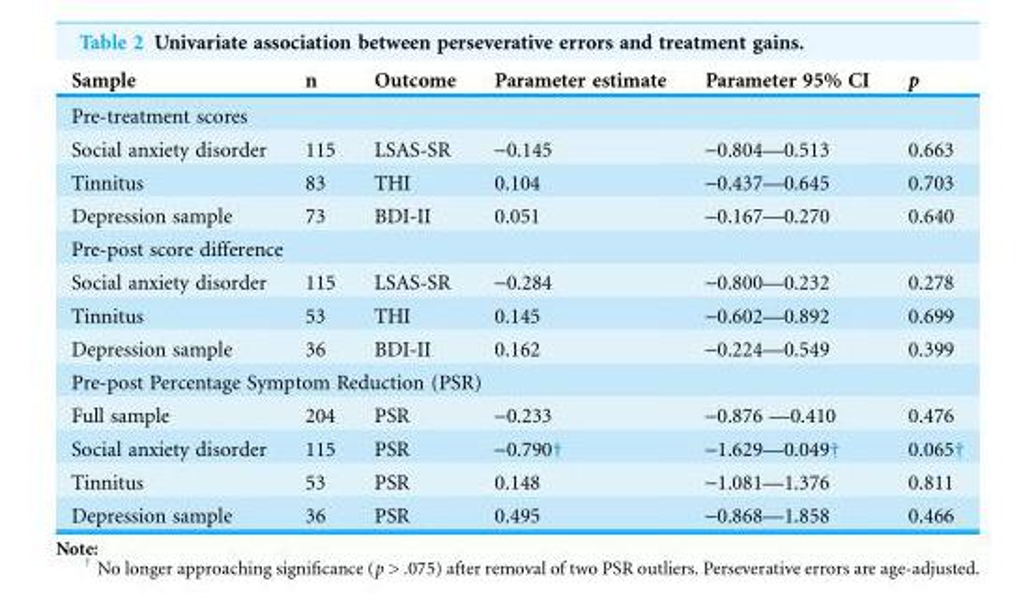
<table><thead><tr><td>Sample</td><td>n</td><td>Outcome</td><td>Parameter estimate</td><td>Parameter 95% CI</td><td>p</td></tr></thead><tbody><tr><td colspan="6">Pre-treatment scores</td></tr><tr><td>Social anxiety disorder</td><td>115</td><td>LSAS-SR</td><td>-0.145</td><td>-0.804—0.513</td><td>0.663</td></tr><tr><td>Tinnitus</td><td>83</td><td>THI</td><td>0.104</td><td>-0.437—0.645</td><td>0.703</td></tr><tr><td>Depression sample</td><td>73</td><td>BDI-II</td><td>0.051</td><td>-0.167—0.270</td><td>0.640</td></tr><tr><td colspan="6">Pre-post score difference</td></tr><tr><td>Social anxiety disorder</td><td>115</td><td>LSAS-SR</td><td>-0.284</td><td>-0.800—0.232</td><td>0.278</td></tr><tr><td>Tinnitus</td><td>53</td><td>THI</td><td>0.145</td><td>-0.602—0.892</td><td>0.699</td></tr><tr><td>Depression sample</td><td>36</td><td>BDI-II</td><td>0.162</td><td>-0.224—0.549</td><td>0.399</td></tr><tr><td colspan="6">Pre-post Percentage Symptom Reduction (PSR)</td></tr><tr><td>Full sample</td><td>204</td><td>PSR</td><td>-0.233</td><td>-0.876 —0.410</td><td>0.476</td></tr><tr><td>Social anxiety disorder</td><td>115</td><td>PSR</td><td>-0.790†</td><td>-1.629—0.049†</td><td>0.065†</td></tr><tr><td>Tinnitus</td><td>53</td><td>PSR</td><td>0.148</td><td>-1.081—1.376</td><td>0.811</td></tr><tr><td>Depression sample</td><td>36</td><td>PSR</td><td>0.495</td><td>-0.868—1.858</td><td>0.466</td></tr></tbody></table>